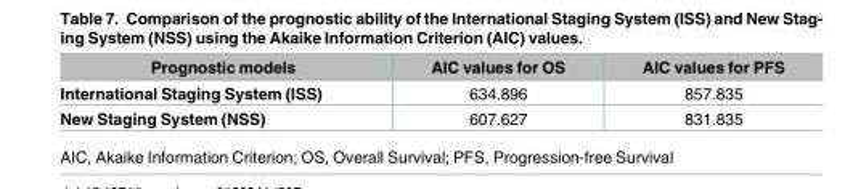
<table><thead><tr><td>Prognostic models</td><td>AIC values for OS</td><td>AIC values for PFS</td></tr></thead><tbody><tr><td>International Staging System (ISS)</td><td>634.896</td><td>857.835</td></tr><tr><td>New Staging System (NSS)</td><td>607.627</td><td>831.835</td></tr></tbody></table>